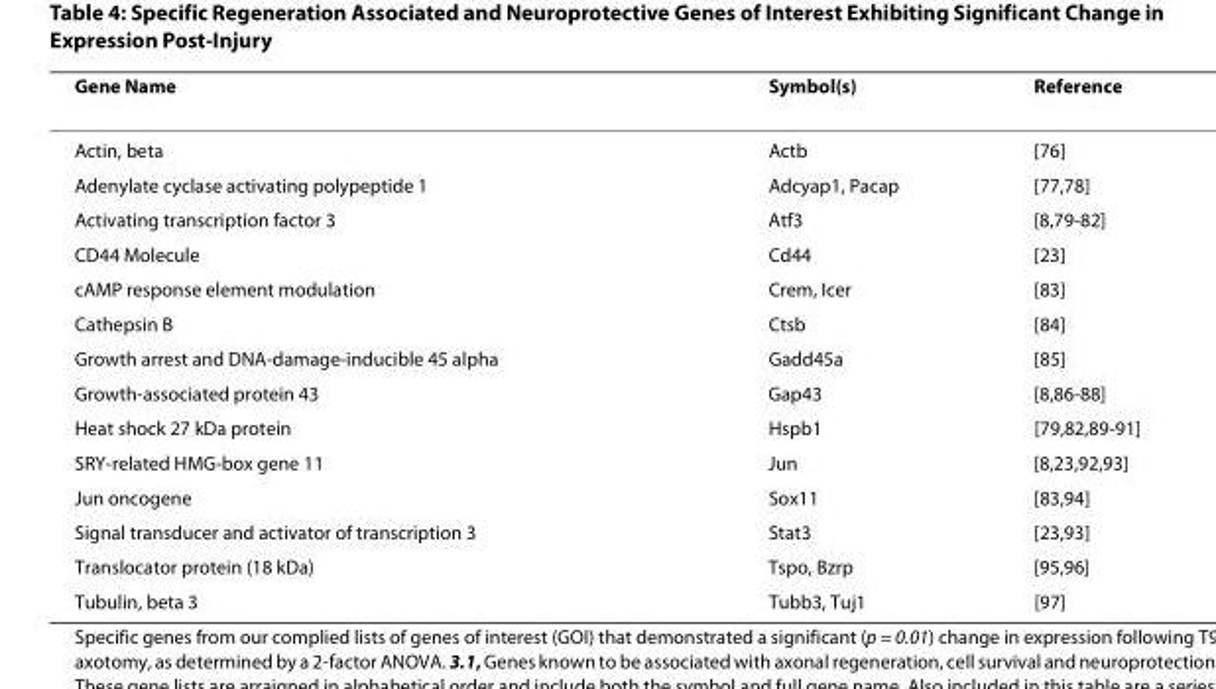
<table><thead><tr><td>Gene Name</td><td>Symbol(s)</td><td>Reference</td></tr></thead><tbody><tr><td>Actin, beta</td><td>Actb</td><td>[76]</td></tr><tr><td>Adenylate cyclase activating polypeptide 1</td><td>Adcyap1, Pacap</td><td>[77,78]</td></tr><tr><td>Activating transcription factor 3</td><td>Atf3</td><td>[8,79-82]</td></tr><tr><td>CD44 Molecule</td><td>Cd44</td><td>[23]</td></tr><tr><td>cAMP response element modulation</td><td>Crem, Icer</td><td>[83]</td></tr><tr><td>Cathepsin B</td><td>Ctsb</td><td>[84]</td></tr><tr><td>Growth arrest and DNA-damage-inducible 45 alpha</td><td>Gadd45a</td><td>[85]</td></tr><tr><td>Growth-associated protein 43</td><td>Gap43</td><td>[8,86-88]</td></tr><tr><td>Heat shock 27 kDa protein</td><td>Hspb1</td><td>[79,82,89-91]</td></tr><tr><td>SRY-related HMG-box gene 11</td><td>Jun</td><td>[8,23,92,93]</td></tr><tr><td>Jun oncogene</td><td>Sox11</td><td>[83,94]</td></tr><tr><td>Signal transducer and activator of transcription 3</td><td>Stat3</td><td>[23,93]</td></tr><tr><td>Translocator protein (18 kDa)</td><td>Tspo, Bzrp</td><td>[95,96]</td></tr><tr><td>Tubulin, beta 3</td><td>Tubb3, Tuj1</td><td>[97]</td></tr></tbody></table>